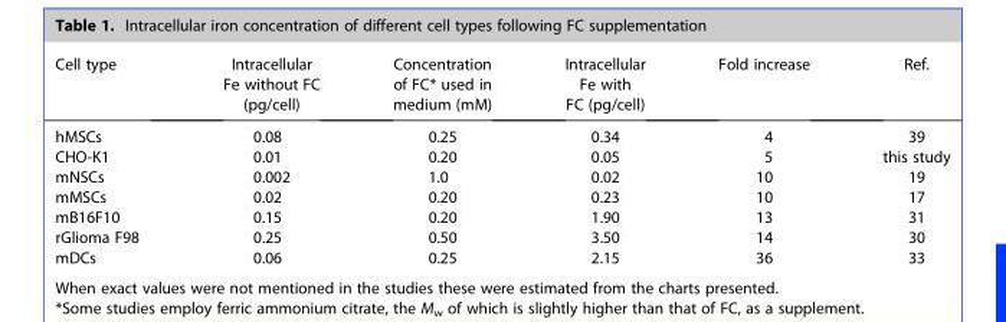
<table><thead><tr><td>Cell type</td><td>Intracellular Fe without FC (pg/cell)</td><td>Concentration of FC* used in medium (mM)</td><td>Intracellular Fe with FC (pg/cell)</td><td>Fold increase</td><td>Ref.</td></tr></thead><tbody><tr><td>hMSCs</td><td>0.08</td><td>0.25</td><td>0.34</td><td>4</td><td>39</td></tr><tr><td>CHO-K1</td><td>0.01</td><td>0.20</td><td>0.05</td><td>5</td><td>this study</td></tr><tr><td>mNSCs</td><td>0.002</td><td>1.0</td><td>0.02</td><td>10</td><td>19</td></tr><tr><td>mMSCs</td><td>0.02</td><td>0.20</td><td>0.23</td><td>10</td><td>17</td></tr><tr><td>mB16F10</td><td>0.15</td><td>0.20</td><td>1.90</td><td>13</td><td>31</td></tr><tr><td>rGlioma F98</td><td>0.25</td><td>0.50</td><td>3.50</td><td>14</td><td>30</td></tr><tr><td>mDCs</td><td>0.06</td><td>0.25</td><td>2.15</td><td>36</td><td>33</td></tr></tbody></table>